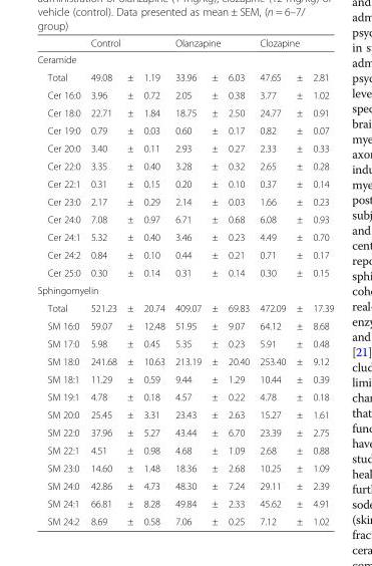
<table><thead><tr><td></td><td colspan="3">Control</td><td colspan="3">Olanzapine</td><td colspan="3">Clozapine</td></tr><tr><td colspan="10">Ceramide</td></tr><tr><td>Total</td><td>49.08</td><td>±</td><td>1.19</td><td>33.96</td><td>±</td><td>6.03</td><td>47.65</td><td>±</td><td>2.81</td></tr></thead><tbody><tr><td>Cer 16:0</td><td>3.96</td><td>±</td><td>0.72</td><td>2.05</td><td>±</td><td>0.38</td><td>3.77</td><td>±</td><td>1.02</td></tr><tr><td>Cer 18:0</td><td>22.71</td><td>±</td><td>1.84</td><td>18.75</td><td>±</td><td>2.50</td><td>24.77</td><td>±</td><td>0.91</td></tr><tr><td>Cer 19:0</td><td>0.79</td><td>±</td><td>0.03</td><td>0.60</td><td>±</td><td>0.17</td><td>0.82</td><td>±</td><td>0.07</td></tr><tr><td>Cer 20:0</td><td>3.40</td><td>±</td><td>0.11</td><td>2.93</td><td>±</td><td>0.27</td><td>2.33</td><td>±</td><td>0.33</td></tr><tr><td>Cer 22:0</td><td>3.35</td><td>±</td><td>0.40</td><td>3.28</td><td>±</td><td>0.32</td><td>2.65</td><td>±</td><td>0.28</td></tr><tr><td>Cer 22:1</td><td>0.31</td><td>±</td><td>0.15</td><td>0.20</td><td>±</td><td>0.10</td><td>0.37</td><td>±</td><td>0.14</td></tr><tr><td>Cer 23:0</td><td>2.17</td><td>±</td><td>0.29</td><td>2.14</td><td>±</td><td>0.03</td><td>1.66</td><td>±</td><td>0.23</td></tr><tr><td>Cer 24:0</td><td>7.08</td><td>±</td><td>0.97</td><td>6.71</td><td>±</td><td>0.68</td><td>6.08</td><td>±</td><td>0.93</td></tr><tr><td>Cer 24:1</td><td>5.32</td><td>±</td><td>0.40</td><td>3.46</td><td>±</td><td>0.23</td><td>4.49</td><td>±</td><td>0.70</td></tr><tr><td>Cer 24:2</td><td>0.84</td><td>±</td><td>0.10</td><td>0.44</td><td>±</td><td>0.21</td><td>0.71</td><td>±</td><td>0.17</td></tr><tr><td>Cer 25:0</td><td>0.30</td><td>±</td><td>0.14</td><td>0.31</td><td>±</td><td>0.14</td><td>0.30</td><td>±</td><td>0.15</td></tr><tr><td colspan="10">Sphingomyelin</td></tr><tr><td>Total</td><td>521.23</td><td>±</td><td>20.74</td><td>409.07</td><td>±</td><td>69.83</td><td>472.09</td><td>±</td><td>17.39</td></tr><tr><td>SM 16:0</td><td>59.07</td><td>±</td><td>12.48</td><td>51.95</td><td>±</td><td>9.07</td><td>64.12</td><td>±</td><td>8.68</td></tr><tr><td>SM 17:0</td><td>5.98</td><td>±</td><td>0.45</td><td>5.35</td><td>±</td><td>0.23</td><td>5.91</td><td>±</td><td>0.48</td></tr><tr><td>SM 18:0</td><td>241.68</td><td>±</td><td>10.63</td><td>213.19</td><td>±</td><td>20.40</td><td>253.40</td><td>±</td><td>9.12</td></tr><tr><td>SM 18:1</td><td>11.29</td><td>±</td><td>0.59</td><td>9.44</td><td>±</td><td>1.29</td><td>10.44</td><td>±</td><td>0.39</td></tr><tr><td>SM 19:1</td><td>4.78</td><td>±</td><td>0.18</td><td>4.57</td><td>±</td><td>0.22</td><td>4.78</td><td>±</td><td>0.18</td></tr><tr><td>SM 20:0</td><td>25.45</td><td>±</td><td>3.31</td><td>23.43</td><td>±</td><td>2.63</td><td>15.27</td><td>±</td><td>1.61</td></tr><tr><td>SM 22:0</td><td>37.96</td><td>±</td><td>5.27</td><td>43.44</td><td>±</td><td>6.70</td><td>23.39</td><td>±</td><td>2.75</td></tr><tr><td>SM 22:1</td><td>4.51</td><td>±</td><td>0.98</td><td>4.68</td><td>±</td><td>1.09</td><td>2.68</td><td>±</td><td>0.88</td></tr><tr><td>SM 23:0</td><td>14.60</td><td>±</td><td>1.48</td><td>18.36</td><td>±</td><td>2.68</td><td>10.25</td><td>±</td><td>1.09</td></tr><tr><td>SM 24:0</td><td>42.86</td><td>±</td><td>4.73</td><td>48.30</td><td>±</td><td>7.24</td><td>29.11</td><td>±</td><td>2.39</td></tr><tr><td>SM 24:1</td><td>66.81</td><td>±</td><td>8.28</td><td>49.84</td><td>±</td><td>2.33</td><td>45.62</td><td>±</td><td>4.91</td></tr><tr><td>SM 24:2</td><td>8.69</td><td>±</td><td>0.58</td><td>7.06</td><td>±</td><td>0.25</td><td>7.12</td><td>±</td><td>1.02</td></tr></tbody></table>